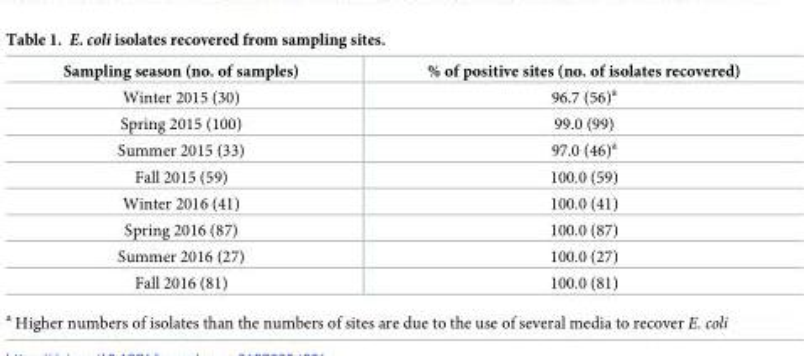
<table><thead><tr><td>Sampling season (no. of samples)</td><td>% of positive sites (no. of isolates recovered)</td></tr></thead><tbody><tr><td>Winter 2015 (30)</td><td>96.7 (56)<sup>a</sup></td></tr><tr><td>Spring 2015 (100)</td><td>99.0 (99)</td></tr><tr><td>Summer 2015 (33)</td><td>97.0 (46)<sup>a</sup></td></tr><tr><td>Fall 2015 (59)</td><td>100.0 (59)</td></tr><tr><td>Winter 2016 (41)</td><td>100.0 (41)</td></tr><tr><td>Spring 2016 (87)</td><td>100.0 (87)</td></tr><tr><td>Summer 2016 (27)</td><td>100.0 (27)</td></tr><tr><td>Fall 2016 (81)</td><td>100.0 (81)</td></tr></tbody></table>